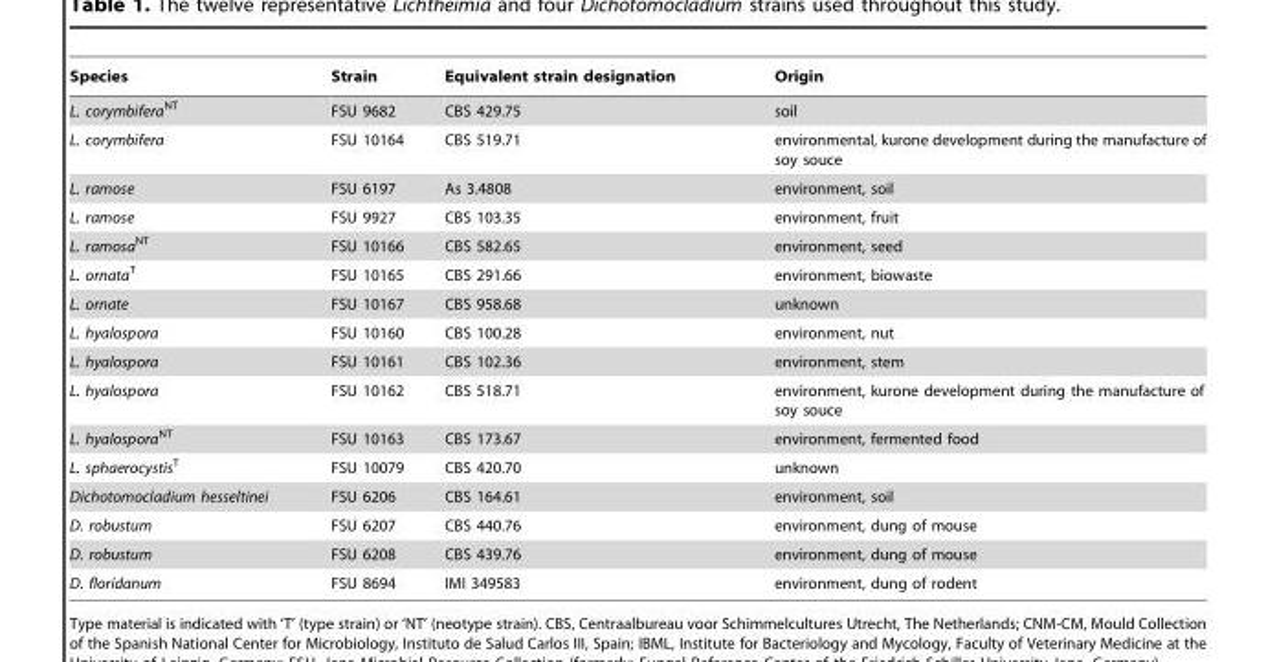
<table><thead><tr><td>Species</td><td>Strain</td><td>Equivalent strain designation</td><td>Origin</td></tr></thead><tbody><tr><td>L. corymbifera<sup>NT</sup></td><td>FSU 9682</td><td>CBS 429.75</td><td>soil</td></tr><tr><td>L. corymbifera</td><td>FSU 10164</td><td>CBS 519.71</td><td>environmental, kurone development during the manufacture of soy souce</td></tr><tr><td>L. ramose</td><td>FSU 6197</td><td>As 3.4808</td><td>environment, soil</td></tr><tr><td>L. ramose</td><td>FSU 9927</td><td>CBS 103.35</td><td>environment, fruit</td></tr><tr><td>L. ramosa<sup>NT</sup></td><td>FSU 10166</td><td>CBS 582.65</td><td>environment, seed</td></tr><tr><td>L. ornata<sup>T</sup></td><td>FSU 10165</td><td>CBS 291.66</td><td>environment, biowaste</td></tr><tr><td>L. ornate</td><td>FSU 10167</td><td>CBS 958.68</td><td>unknown</td></tr><tr><td>L. hyalospora</td><td>FSU 10160</td><td>CBS 100.28</td><td>environment, nut</td></tr><tr><td>L. hyalospora</td><td>FSU 10161</td><td>CBS 102.36</td><td>environment, stem</td></tr><tr><td>L. hyalospora</td><td>FSU 10162</td><td>CBS 518.71</td><td>environment, kurone development during the manufacture of soy souce</td></tr><tr><td>L. hyalospora<sup>NT</sup></td><td>FSU 10163</td><td>CBS 173.67</td><td>environment, fermented food</td></tr><tr><td>L. sphaerocystis<sup>T</sup></td><td>FSU 10079</td><td>CBS 420.70</td><td>unknown</td></tr><tr><td>Dichotomocladium hesseltinei</td><td>FSU 6206</td><td>CBS 164.61</td><td>environment, soil</td></tr><tr><td>D. robustum</td><td>FSU 6207</td><td>CBS 440.76</td><td>environment, dung of mouse</td></tr><tr><td>D. robustum</td><td>FSU 6208</td><td>CBS 439.76</td><td>environment, dung of mouse</td></tr><tr><td>D. floridanum</td><td>FSU 8694</td><td>IMI 349583</td><td>environment, dung of rodent</td></tr></tbody></table>